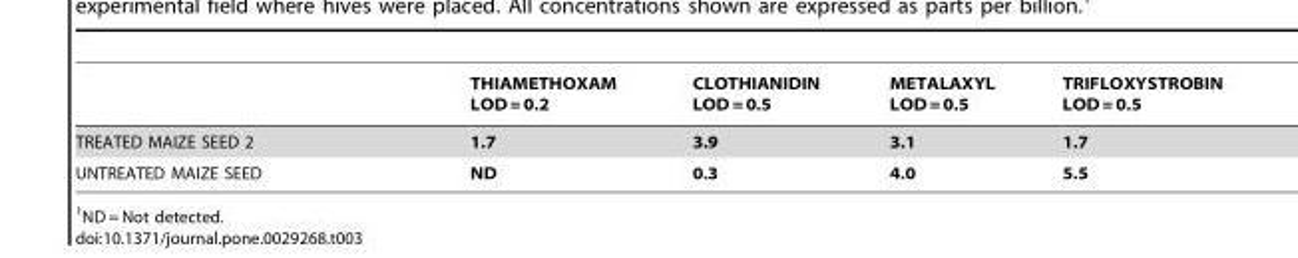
<table><thead><tr><td></td><td>THIAMETHOXAM LOD = 0.2</td><td>CLOTHIANIDIN LOD = 0.5</td><td>METALAXYL LOD = 0.5</td><td>TRIFLOXYSTROBIN LOD = 0.5</td></tr></thead><tbody><tr><td>TREATED MAIZE SEED 2</td><td>1.7</td><td>3.9</td><td>3.1</td><td>1.7</td></tr><tr><td>UNTREATED MAIZE SEED</td><td>ND</td><td>0.3</td><td>4.0</td><td>5.5</td></tr></tbody></table>